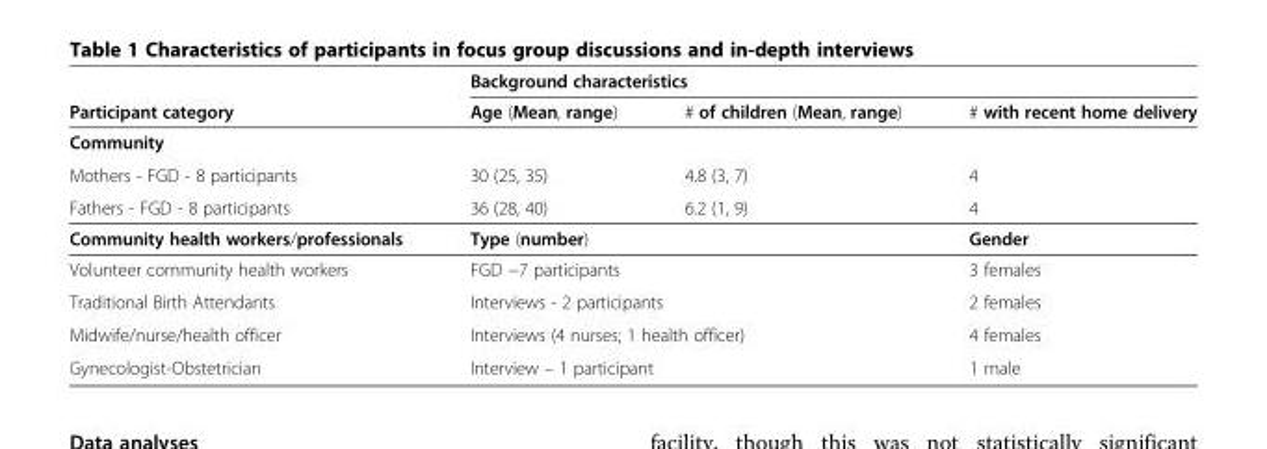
<table><thead><tr><td rowspan="2">Participant category</td><td colspan="3">Background characteristics</td></tr><tr><td>Age (Mean, range)</td><td># of children (Mean, range)</td><td># with recent home delivery</td></tr></thead><tbody><tr><td colspan="4">Community</td></tr><tr><td>Mothers - FGD - 8 participants</td><td>30 (25, 35)</td><td>4.8 (3, 7)</td><td>4</td></tr><tr><td>Fathers - FGD - 8 participants</td><td>36 (28, 40)</td><td>6.2 (1, 9)</td><td>4</td></tr><tr><td>Community health workers/professionals</td><td colspan="2">Type (number)</td><td>Gender</td></tr><tr><td>Volunteer community health workers</td><td colspan="2">FGD −7 participants</td><td>3 females</td></tr><tr><td>Traditional Birth Attendants</td><td colspan="2">Interviews - 2 participants</td><td>2 females</td></tr><tr><td>Midwife/nurse/health officer</td><td colspan="2">Interviews (4 nurses; 1 health officer)</td><td>4 females</td></tr><tr><td>Gynecologist-Obstetrician</td><td colspan="2">Interview – 1 participant</td><td>1 male</td></tr></tbody></table>